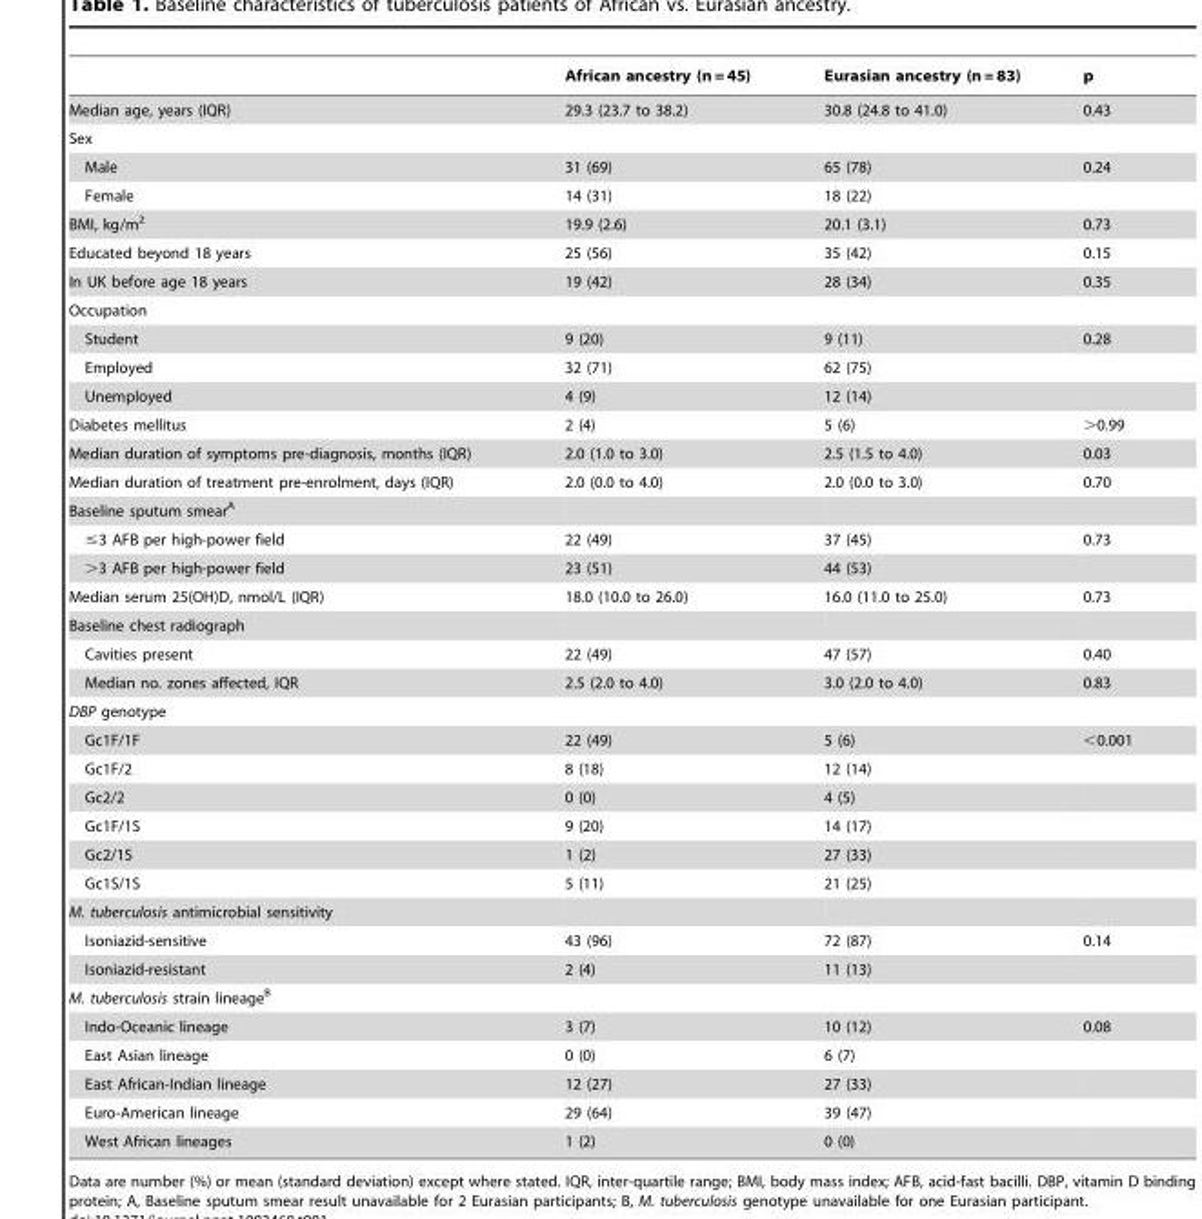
<table><thead><tr><td></td><td>African ancestry (n = 45)</td><td>Eurasian ancestry (n = 83)</td><td>p</td></tr></thead><tbody><tr><td>Median age, years (IQR)</td><td>29.3 (23.7 to 38.2)</td><td>30.8 (24.8 to 41.0)</td><td>0.43</td></tr><tr><td colspan="4">Sex</td></tr><tr><td>Male</td><td>31 (69)</td><td>65 (78)</td><td>0.24</td></tr><tr><td>Female</td><td>14 (31)</td><td>18 (22)</td><td></td></tr><tr><td>BMI, kg/m<sup>2</sup></td><td>19.9 (2.6)</td><td>20.1 (3.1)</td><td>0.73</td></tr><tr><td>Educated beyond 18 years</td><td>25 (56)</td><td>35 (42)</td><td>0.15</td></tr><tr><td>In UK before age 18 years</td><td>19 (42)</td><td>28 (34)</td><td>0.35</td></tr><tr><td colspan="4">Occupation</td></tr><tr><td>Student</td><td>9 (20)</td><td>9 (11)</td><td>0.28</td></tr><tr><td>Employed</td><td>32 (71)</td><td>62 (75)</td><td></td></tr><tr><td>Unemployed</td><td>4 (9)</td><td>12 (14)</td><td></td></tr><tr><td>Diabetes mellitus</td><td>2 (4)</td><td>5 (6)</td><td>&gt;0.99</td></tr><tr><td>Median duration of symptoms pre-diagnosis, months (IQR)</td><td>2.0 (1.0 to 3.0)</td><td>2.5 (1.5 to 4.0)</td><td>0.03</td></tr><tr><td>Median duration of treatment pre-enrolment, days (IQR)</td><td>2.0 (0.0 to 4.0)</td><td>2.0 (0.0 to 3.0)</td><td>0.70</td></tr><tr><td colspan="4">Baseline sputum smear<sup>A</sup></td></tr><tr><td>≤3 AFB per high-power field</td><td>22 (49)</td><td>37 (45)</td><td>0.73</td></tr><tr><td>&gt;3 AFB per high-power field</td><td>23 (51)</td><td>44 (53)</td><td></td></tr><tr><td>Median serum 25(OH)D, nmol/L (IQR)</td><td>18.0 (10.0 to 26.0)</td><td>16.0 (11.0 to 25.0)</td><td>0.73</td></tr><tr><td colspan="4">Baseline chest radiograph</td></tr><tr><td>Cavities present</td><td>22 (49)</td><td>47 (57)</td><td>0.40</td></tr><tr><td>Median no. zones affected, IQR</td><td>2.5 (2.0 to 4.0)</td><td>3.0 (2.0 to 4.0)</td><td>0.83</td></tr><tr><td colspan="4">DBP genotype</td></tr><tr><td>Gc1F/1F</td><td>22 (49)</td><td>5 (6)</td><td>&lt;0.001</td></tr><tr><td>Gc1F/2</td><td>8 (18)</td><td>12 (14)</td><td></td></tr><tr><td>Gc2/2</td><td>0 (0)</td><td>4 (5)</td><td></td></tr><tr><td>Gc1F/1S</td><td>9 (20)</td><td>14 (17)</td><td></td></tr><tr><td>Gc2/1S</td><td>1 (2)</td><td>27 (33)</td><td></td></tr><tr><td>Gc1S/1S</td><td>5 (11)</td><td>21 (25)</td><td></td></tr><tr><td colspan="4">M. tuberculosis antimicrobial sensitivity</td></tr><tr><td>Isoniazid-sensitive</td><td>43 (96)</td><td>72 (87)</td><td>0.14</td></tr><tr><td>Isoniazid-resistant</td><td>2 (4)</td><td>11 (13)</td><td></td></tr><tr><td colspan="4">M. tuberculosis strain lineage<sup>B</sup></td></tr><tr><td>Indo-Oceanic lineage</td><td>3 (7)</td><td>10 (12)</td><td>0.08</td></tr><tr><td>East Asian lineage</td><td>0 (0)</td><td>6 (7)</td><td></td></tr><tr><td>East African-Indian lineage</td><td>12 (27)</td><td>27 (33)</td><td></td></tr><tr><td>Euro-American lineage</td><td>29 (64)</td><td>39 (47)</td><td></td></tr><tr><td>West African lineages</td><td>1 (2)</td><td>0 (0)</td><td></td></tr></tbody></table>